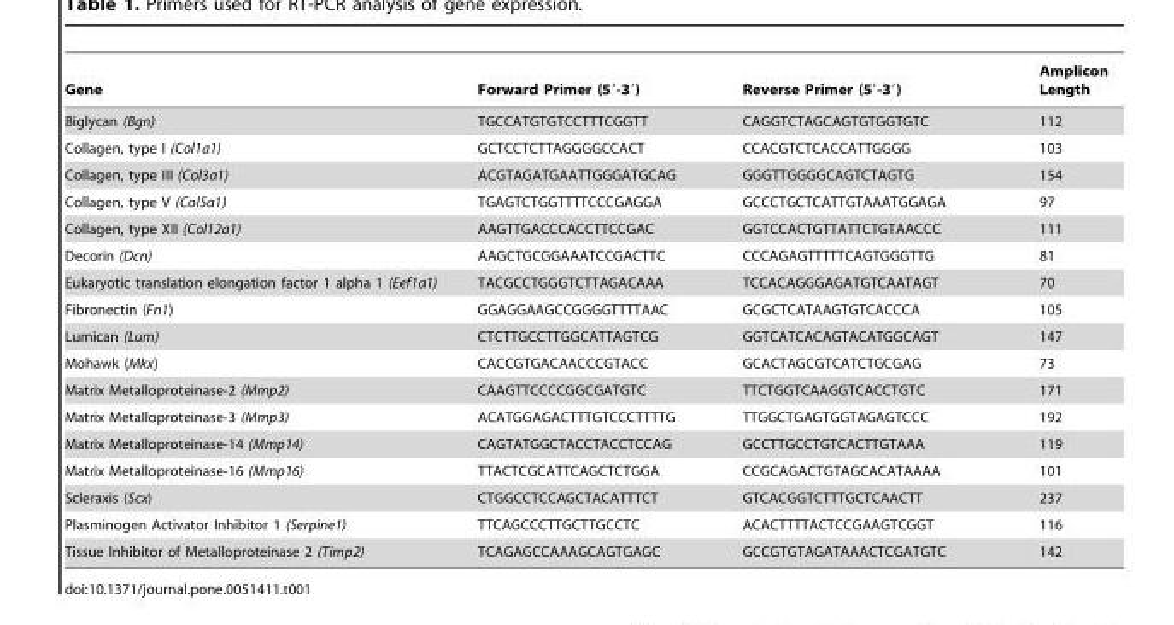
<table><thead><tr><td>Gene</td><td>Forward Primer (5′-3′)</td><td>Reverse Primer (5′-3′)</td><td>Amplicon Length</td></tr></thead><tbody><tr><td>Biglycan (Bgn)</td><td>TGCCATGTGTCCTTTCGGTT</td><td>CAGGTCTAGCAGTGTGGTGTC</td><td>112</td></tr><tr><td>Collagen, type I (Col1a1)</td><td>GCTCCTCTTAGGGGCCACT</td><td>CCACGTCTCACCATTGGGG</td><td>103</td></tr><tr><td>Collagen, type III (Col3a1)</td><td>ACGTAGATGAATTGGGATGCAG</td><td>GGGTTGGGGCAGTCTAGTG</td><td>154</td></tr><tr><td>Collagen, type V (Col5a1)</td><td>TGAGTCTGGTTTTCCCGAGGA</td><td>GCCCTGCTCATTGTAAATGGAGA</td><td>97</td></tr><tr><td>Collagen, type XII (Col12a1)</td><td>AAGTTGACCCACCTTCCGAC</td><td>GGTCCACTGTTATTCTGTAACCC</td><td>111</td></tr><tr><td>Decorin (Dcn)</td><td>AAGCTGCGGAAATCCGACTTC</td><td>CCCAGAGTTTTTCAGTGGGTTG</td><td>81</td></tr><tr><td>Eukaryotic translation elongation factor 1 alpha 1 (Eef1a1)</td><td>TACGCCTGGGTCTTAGACAAA</td><td>TCCACAGGGAGATGTCAATAGT</td><td>70</td></tr><tr><td>Fibronectin (Fn1)</td><td>GGAGGAAGCCGGGGTTTTAAC</td><td>GCGCTCATAAGTGTCACCCA</td><td>105</td></tr><tr><td>Lumican (Lum)</td><td>CTCTTGCCTTGGCATTAGTCG</td><td>GGTCATCACAGTACATGGCAGT</td><td>147</td></tr><tr><td>Mohawk (Mkx)</td><td>CACCGTGACAACCCGTACC</td><td>GCACTAGCGTCATCTGCGAG</td><td>73</td></tr><tr><td>Matrix Metalloproteinase-2 (Mmp2)</td><td>CAAGTTCCCCGGCGATGTC</td><td>TTCTGGTCAAGGTCACCTGTC</td><td>171</td></tr><tr><td>Matrix Metalloproteinase-3 (Mmp3)</td><td>ACATGGAGACTTTGTCCCTTTTG</td><td>TTGGCTGAGTGGTAGAGTCCC</td><td>192</td></tr><tr><td>Matrix Metalloproteinase-14 (Mmp14)</td><td>CAGTATGGCTACCTACCTCCAG</td><td>GCCTTGCCTGTCACTTGTAAA</td><td>119</td></tr><tr><td>Matrix Metalloproteinase-16 (Mmp16)</td><td>TTACTCGCATTCAGCTCTGGA</td><td>CCGCAGACTGTAGCACATAAAA</td><td>101</td></tr><tr><td>Scleraxis (Scx)</td><td>CTGGCCTCCAGCTACATTTCT</td><td>GTCACGGTCTTTGCTCAACTT</td><td>237</td></tr><tr><td>Plasminogen Activator Inhibitor 1 (Serpine1)</td><td>TTCAGCCCTTGCTTGCCTC</td><td>ACACTTTTACTCCGAAGTCGGT</td><td>116</td></tr><tr><td>Tissue Inhibitor of Metalloproteinase 2 (Timp2)</td><td>TCAGAGCCAAAGCAGTGAGC</td><td>GCCGTGTAGATAAACTCGATGTC</td><td>142</td></tr></tbody></table>